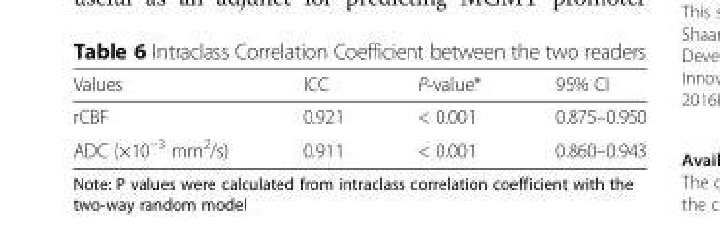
<table><thead><tr><td>Values</td><td>ICC</td><td>P-value*</td><td>95% CI</td></tr></thead><tbody><tr><td>rCBF</td><td>0.921</td><td>&lt; 0.001</td><td>0.875–0.950</td></tr><tr><td>ADC (×10<sup>−3</sup> mm<sup>2</sup>/s)</td><td>0.911</td><td>&lt; 0.001</td><td>0.860–0.943</td></tr></tbody></table>